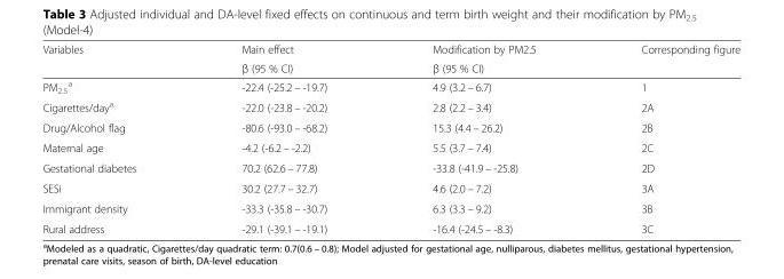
<table><thead><tr><td rowspan="2">Variables</td><td rowspan="2">Main effect β (95 % CI)</td><td rowspan="2">Modification by PM2.5 β (95 % CI)</td><td rowspan="2">Corresponding figure</td></tr><tr></tr></thead><tbody><tr><td>PM<sub>2.5</sub> <sup>a</sup></td><td>-22.4 (-25.2 – -19.7)</td><td>4.9 (3.2 – 6.7)</td><td>1</td></tr><tr><td>Cigarettes/day<sup>a</sup></td><td>-22.0 (-23.8 – -20.2)</td><td>2.8 (2.2 – 3.4)</td><td>2A</td></tr><tr><td>Drug/Alcohol flag</td><td>-80.6 (-93.0 – -68.2)</td><td>15.3 (4.4 – 26.2)</td><td>2B</td></tr><tr><td>Maternal age</td><td>-4.2 (-6.2 – -2.2)</td><td>5.5 (3.7 – 7.4)</td><td>2C</td></tr><tr><td>Gestational diabetes</td><td>70.2 (62.6 – 77.8)</td><td>-33.8 (-41.9 – -25.8)</td><td>2D</td></tr><tr><td>SESi</td><td>30.2 (27.7 – 32.7)</td><td>4.6 (2.0 – 7.2)</td><td>3A</td></tr><tr><td>Immigrant density</td><td>-33.3 (-35.8 – -30.7)</td><td>6.3 (3.3 – 9.2)</td><td>3B</td></tr><tr><td>Rural address</td><td>-29.1 (-39.1 – -19.1)</td><td>-16.4 (-24.5 – -8.3)</td><td>3C</td></tr></tbody></table>